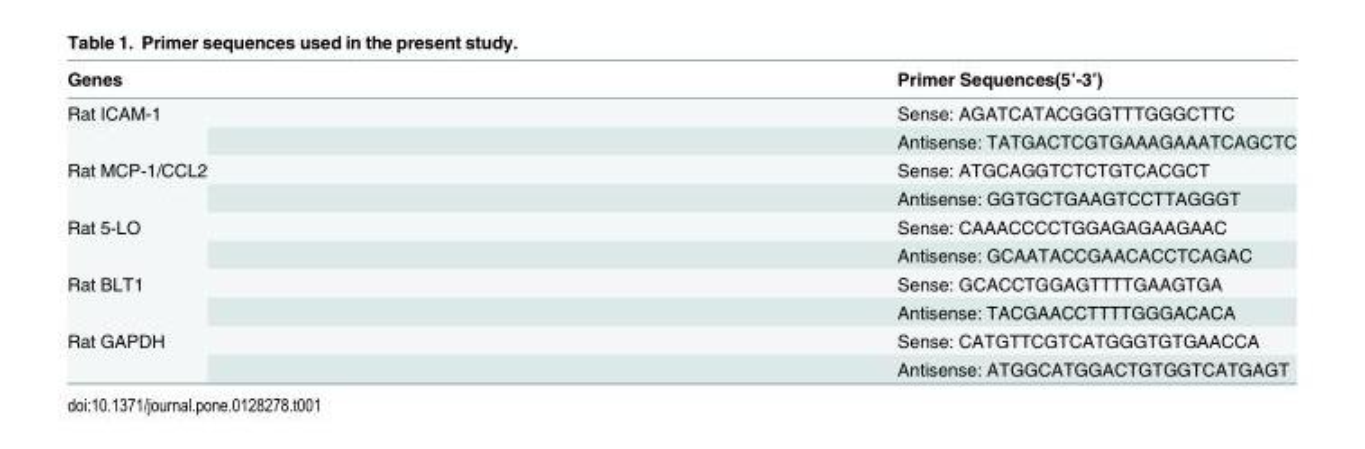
<table><thead><tr><td>Genes</td><td>Primer Sequences(5’-3’)</td></tr></thead><tbody><tr><td rowspan="2">Rat ICAM-1</td><td>Sense: AGATCATACGGGTTTGGGCTTC</td></tr><tr><td>Antisense: TATGACTCGTGAAAGAAATCAGCTC</td></tr><tr><td rowspan="2">Rat MCP-1/CCL2</td><td>Sense: ATGCAGGTCTCTGTCACGCT</td></tr><tr><td>Antisense: GGTGCTGAAGTCCTTAGGGT</td></tr><tr><td rowspan="2">Rat 5-LO</td><td>Sense: CAAACCCCTGGAGAGAAGAAC</td></tr><tr><td>Antisense: GCAATACCGAACACCTCAGAC</td></tr><tr><td rowspan="2">Rat BLT1</td><td>Sense: GCACCTGGAGTTTTGAAGTGA</td></tr><tr><td>Antisense: TACGAACCTTTTGGGACACA</td></tr><tr><td rowspan="2">Rat GAPDH</td><td>Sense: CATGTTCGTCATGGGTGTGAACCA</td></tr><tr><td>Antisense: ATGGCATGGACTGTGGTCATGAGT</td></tr></tbody></table>